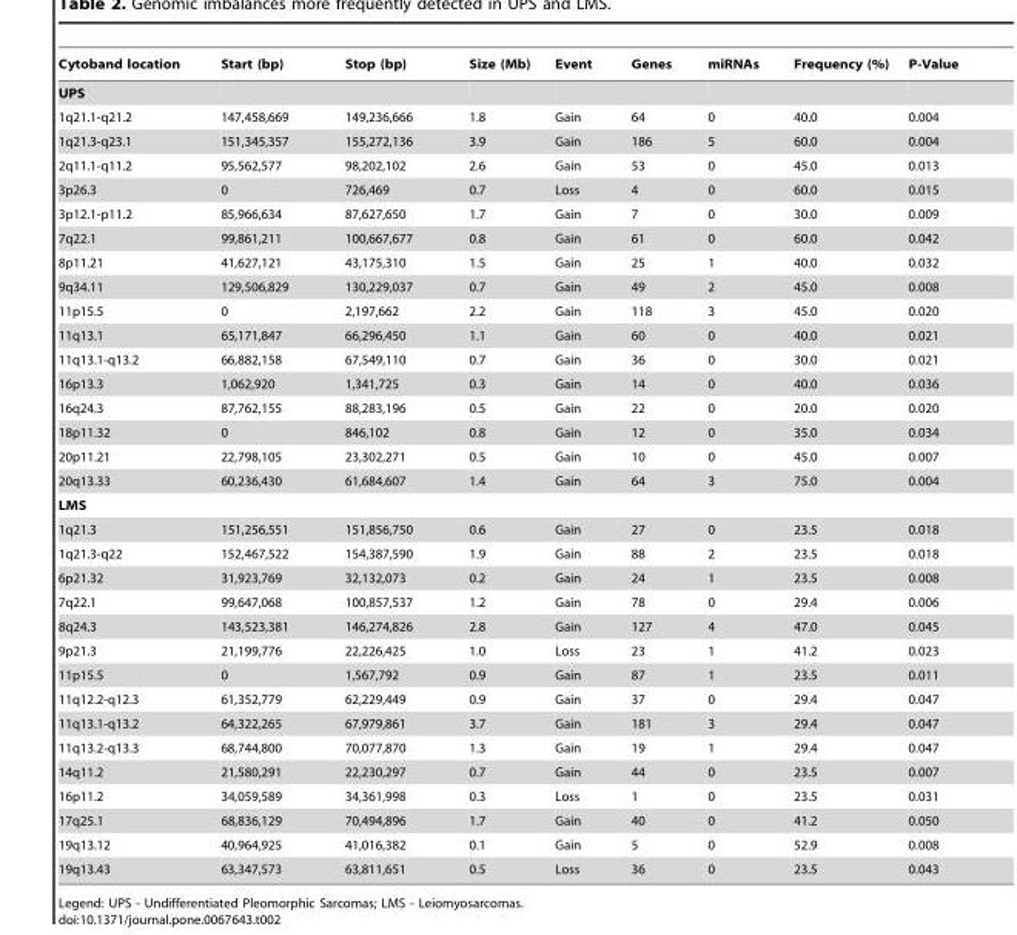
<table><thead><tr><td>Cytoband location</td><td>Start (bp)</td><td>Stop (bp)</td><td>Size (Mb)</td><td>Event</td><td>Genes</td><td>miRNAs</td><td>Frequency (%)</td><td>P-Value</td></tr></thead><tbody><tr><td colspan="9">UPS</td></tr><tr><td>1q21.1-q21.2</td><td>147,458,669</td><td>149,236,666</td><td>1.8</td><td>Gain</td><td>64</td><td>0</td><td>40.0</td><td>0.004</td></tr><tr><td>1q21.3-q23.1</td><td>151,345,357</td><td>155,272,136</td><td>3.9</td><td>Gain</td><td>186</td><td>5</td><td>60.0</td><td>0.004</td></tr><tr><td>2q11.1-q11.2</td><td>95,562,577</td><td>98,202,102</td><td>2.6</td><td>Gain</td><td>53</td><td>0</td><td>45.0</td><td>0.013</td></tr><tr><td>3p26.3</td><td>0</td><td>726,469</td><td>0.7</td><td>Loss</td><td>4</td><td>0</td><td>60.0</td><td>0.015</td></tr><tr><td>3p12.1-p11.2</td><td>85,966,634</td><td>87,627,650</td><td>1.7</td><td>Gain</td><td>7</td><td>0</td><td>30.0</td><td>0.009</td></tr><tr><td>7q22.1</td><td>99,861,211</td><td>100,667,677</td><td>0.8</td><td>Gain</td><td>61</td><td>0</td><td>60.0</td><td>0.042</td></tr><tr><td>8p11.21</td><td>41,627,121</td><td>43,175,310</td><td>1.5</td><td>Gain</td><td>25</td><td>1</td><td>40.0</td><td>0.032</td></tr><tr><td>9q34.11</td><td>129,506,829</td><td>130,229,037</td><td>0.7</td><td>Gain</td><td>49</td><td>2</td><td>45.0</td><td>0.008</td></tr><tr><td>11p15.5</td><td>0</td><td>2,197,662</td><td>2.2</td><td>Gain</td><td>118</td><td>3</td><td>45.0</td><td>0.020</td></tr><tr><td>11q13.1</td><td>65,171,847</td><td>66,296,450</td><td>1.1</td><td>Gain</td><td>60</td><td>0</td><td>40.0</td><td>0.021</td></tr><tr><td>11q13.1-q13.2</td><td>66,882,158</td><td>67,549,110</td><td>0.7</td><td>Gain</td><td>36</td><td>0</td><td>30.0</td><td>0.021</td></tr><tr><td>16p13.3</td><td>1,062,920</td><td>1,341,725</td><td>0.3</td><td>Gain</td><td>14</td><td>0</td><td>40.0</td><td>0.036</td></tr><tr><td>16q24.3</td><td>87,762,155</td><td>88,283,196</td><td>0.5</td><td>Gain</td><td>22</td><td>0</td><td>20.0</td><td>0.020</td></tr><tr><td>18p11.32</td><td>0</td><td>846,102</td><td>0.8</td><td>Gain</td><td>12</td><td>0</td><td>35.0</td><td>0.034</td></tr><tr><td>20p11.21</td><td>22,798,105</td><td>23,302,271</td><td>0.5</td><td>Gain</td><td>10</td><td>0</td><td>45.0</td><td>0.007</td></tr><tr><td>20q13.33</td><td>60,236,430</td><td>61,684,607</td><td>1.4</td><td>Gain</td><td>64</td><td>3</td><td>75.0</td><td>0.004</td></tr><tr><td colspan="9">LMS</td></tr><tr><td>1q21.3</td><td>151,256,551</td><td>151,856,750</td><td>0.6</td><td>Gain</td><td>27</td><td>0</td><td>23.5</td><td>0.018</td></tr><tr><td>1q21.3-q22</td><td>152,467,522</td><td>154,387,590</td><td>1.9</td><td>Gain</td><td>88</td><td>2</td><td>23.5</td><td>0.018</td></tr><tr><td>6p21.32</td><td>31,923,769</td><td>32,132,073</td><td>0.2</td><td>Gain</td><td>24</td><td>1</td><td>23.5</td><td>0.008</td></tr><tr><td>7q22.1</td><td>99,647,068</td><td>100,857,537</td><td>1.2</td><td>Gain</td><td>78</td><td>0</td><td>29.4</td><td>0.006</td></tr><tr><td>8q24.3</td><td>143,523,381</td><td>146,274,826</td><td>2.8</td><td>Gain</td><td>127</td><td>4</td><td>47.0</td><td>0.045</td></tr><tr><td>9p21.3</td><td>21,199,776</td><td>22,226,425</td><td>1.0</td><td>Loss</td><td>23</td><td>1</td><td>41.2</td><td>0.023</td></tr><tr><td>11p15.5</td><td>0</td><td>1,567,792</td><td>0.9</td><td>Gain</td><td>87</td><td>1</td><td>23.5</td><td>0.011</td></tr><tr><td>11q12.2-q12.3</td><td>61,352,779</td><td>62,229,449</td><td>0.9</td><td>Gain</td><td>37</td><td>0</td><td>29.4</td><td>0.047</td></tr><tr><td>11q13.1-q13.2</td><td>64,322,265</td><td>67,979,861</td><td>3.7</td><td>Gain</td><td>181</td><td>3</td><td>29.4</td><td>0.047</td></tr><tr><td>11q13.2-q13.3</td><td>68,744,800</td><td>70,077,870</td><td>1.3</td><td>Gain</td><td>19</td><td>1</td><td>29.4</td><td>0.047</td></tr><tr><td>14q11.2</td><td>21,580,291</td><td>22,230,297</td><td>0.7</td><td>Gain</td><td>44</td><td>0</td><td>23.5</td><td>0.007</td></tr><tr><td>16p11.2</td><td>34,059,589</td><td>34,361,998</td><td>0.3</td><td>Loss</td><td>1</td><td>0</td><td>23.5</td><td>0.031</td></tr><tr><td>17q25.1</td><td>68,836,129</td><td>70,494,896</td><td>1.7</td><td>Gain</td><td>40</td><td>0</td><td>41.2</td><td>0.050</td></tr><tr><td>19q13.12</td><td>40,964,925</td><td>41,016,382</td><td>0.1</td><td>Gain</td><td>5</td><td>0</td><td>52.9</td><td>0.008</td></tr><tr><td>19q13.43</td><td>63,347,573</td><td>63,811,651</td><td>0.5</td><td>Loss</td><td>36</td><td>0</td><td>23.5</td><td>0.043</td></tr></tbody></table>